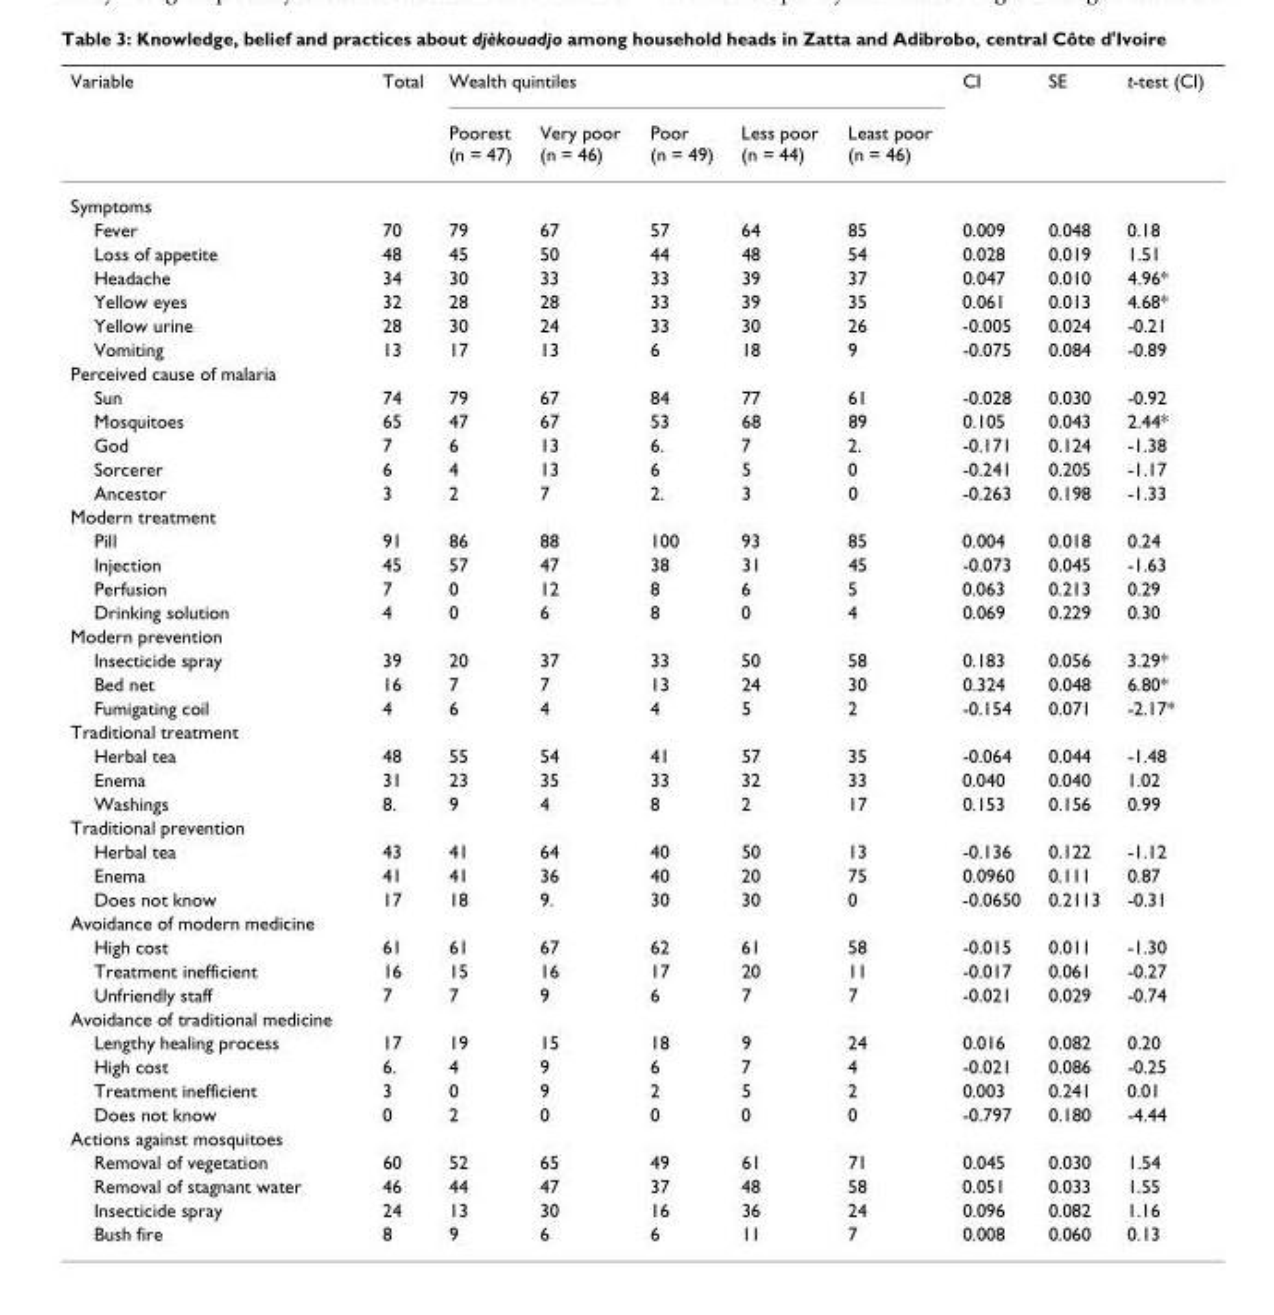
<table><thead><tr><td rowspan="2">Variable</td><td rowspan="2">Total</td><td colspan="5">Wealth quintiles</td><td rowspan="2">CI</td><td rowspan="2">SE</td><td rowspan="2">t-test (CI)</td></tr><tr><td>Poorest (n = 47)</td><td>Very poor (n = 46)</td><td>Poor (n = 49)</td><td>Less poor (n = 44)</td><td>Least poor (n = 46)</td></tr></thead><tbody><tr><td colspan="10">Symptoms</td></tr><tr><td>Fever</td><td>70</td><td>79</td><td>67</td><td>57</td><td>64</td><td>85</td><td>0.009</td><td>0.048</td><td>0.18</td></tr><tr><td>Loss of appetite</td><td>48</td><td>45</td><td>50</td><td>44</td><td>48</td><td>54</td><td>0.028</td><td>0.019</td><td>1.51</td></tr><tr><td>Headache</td><td>34</td><td>30</td><td>33</td><td>33</td><td>39</td><td>37</td><td>0.047</td><td>0.010</td><td>4.96*</td></tr><tr><td>Yellow eyes</td><td>32</td><td>28</td><td>28</td><td>33</td><td>39</td><td>35</td><td>0.061</td><td>0.013</td><td>4.68*</td></tr><tr><td>Yellow urine</td><td>28</td><td>30</td><td>24</td><td>33</td><td>30</td><td>26</td><td>-0.005</td><td>0.024</td><td>-0.21</td></tr><tr><td>Vomiting</td><td>13</td><td>17</td><td>13</td><td>6</td><td>18</td><td>9</td><td>-0.075</td><td>0.084</td><td>-0.89</td></tr><tr><td colspan="10">Perceived cause of malaria</td></tr><tr><td>Sun</td><td>74</td><td>79</td><td>67</td><td>84</td><td>77</td><td>61</td><td>-0.028</td><td>0.030</td><td>-0.92</td></tr><tr><td>Mosquitoes</td><td>65</td><td>47</td><td>67</td><td>53</td><td>68</td><td>89</td><td>0.105</td><td>0.043</td><td>2.44*</td></tr><tr><td>God</td><td>7</td><td>6</td><td>13</td><td>6.</td><td>7</td><td>2.</td><td>-0.171</td><td>0.124</td><td>-1.38</td></tr><tr><td>Sorcerer</td><td>6</td><td>4</td><td>13</td><td>6</td><td>5</td><td>0</td><td>-0.241</td><td>0.205</td><td>-1.17</td></tr><tr><td>Ancestor</td><td>3</td><td>2</td><td>7</td><td>2.</td><td>3</td><td>0</td><td>-0.263</td><td>0.198</td><td>-1.33</td></tr><tr><td colspan="10">Modern treatment</td></tr><tr><td>Pill</td><td>91</td><td>86</td><td>88</td><td>100</td><td>93</td><td>85</td><td>0.004</td><td>0.018</td><td>0.24</td></tr><tr><td>Injection</td><td>45</td><td>57</td><td>47</td><td>38</td><td>31</td><td>45</td><td>-0.073</td><td>0.045</td><td>-1.63</td></tr><tr><td>Perfusion</td><td>7</td><td>0</td><td>12</td><td>8</td><td>6</td><td>5</td><td>0.063</td><td>0.213</td><td>0.29</td></tr><tr><td>Drinking solution</td><td>4</td><td>0</td><td>6</td><td>8</td><td>0</td><td>4</td><td>0.069</td><td>0.229</td><td>0.30</td></tr><tr><td colspan="10">Modern prevention</td></tr><tr><td>Insecticide spray</td><td>39</td><td>20</td><td>37</td><td>33</td><td>50</td><td>58</td><td>0.183</td><td>0.056</td><td>3.29*</td></tr><tr><td>Bed net</td><td>16</td><td>7</td><td>7</td><td>13</td><td>24</td><td>30</td><td>0.324</td><td>0.048</td><td>6.80*</td></tr><tr><td>Fumigating coil</td><td>4</td><td>6</td><td>4</td><td>4</td><td>5</td><td>2</td><td>-0.154</td><td>0.071</td><td>-2.17*</td></tr><tr><td colspan="10">Traditional treatment</td></tr><tr><td>Herbal tea</td><td>48</td><td>55</td><td>54</td><td>41</td><td>57</td><td>35</td><td>-0.064</td><td>0.044</td><td>-1.48</td></tr><tr><td>Enema</td><td>31</td><td>23</td><td>35</td><td>33</td><td>32</td><td>33</td><td>0.040</td><td>0.040</td><td>1.02</td></tr><tr><td>Washings</td><td>8.</td><td>9</td><td>4</td><td>8</td><td>2</td><td>17</td><td>0.153</td><td>0.156</td><td>0.99</td></tr><tr><td colspan="10">Traditional prevention</td></tr><tr><td>Herbal tea</td><td>43</td><td>41</td><td>64</td><td>40</td><td>50</td><td>13</td><td>-0.136</td><td>0.122</td><td>-1.12</td></tr><tr><td>Enema</td><td>41</td><td>41</td><td>36</td><td>40</td><td>20</td><td>75</td><td>0.0960</td><td>0.111</td><td>0.87</td></tr><tr><td>Does not know</td><td>17</td><td>18</td><td>9.</td><td>30</td><td>30</td><td>0</td><td>-0.0650</td><td>0.2113</td><td>-0.31</td></tr><tr><td colspan="10">Avoidance of modern medicine</td></tr><tr><td>High cost</td><td>61</td><td>61</td><td>67</td><td>62</td><td>61</td><td>58</td><td>-0.015</td><td>0.011</td><td>-1.30</td></tr><tr><td>Treatment inefficient</td><td>16</td><td>15</td><td>16</td><td>17</td><td>20</td><td>11</td><td>-0.017</td><td>0.061</td><td>-0.27</td></tr><tr><td>Unfriendly staff</td><td>7</td><td>7</td><td>9</td><td>6</td><td>7</td><td>7</td><td>-0.021</td><td>0.029</td><td>-0.74</td></tr><tr><td colspan="10">Avoidance of traditional medicine</td></tr><tr><td>Lengthy healing process</td><td>17</td><td>19</td><td>15</td><td>18</td><td>9</td><td>24</td><td>0.016</td><td>0.082</td><td>0.20</td></tr><tr><td>High cost</td><td>6.</td><td>4</td><td>9</td><td>6</td><td>7</td><td>4</td><td>-0.021</td><td>0.086</td><td>-0.25</td></tr><tr><td>Treatment inefficient</td><td>3</td><td>0</td><td>9</td><td>2</td><td>5</td><td>2</td><td>0.003</td><td>0.241</td><td>0.01</td></tr><tr><td>Does not know</td><td>0</td><td>2</td><td>0</td><td>0</td><td>0</td><td>0</td><td>-0.797</td><td>0.180</td><td>-4.44</td></tr><tr><td colspan="10">Actions against mosquitoes</td></tr><tr><td>Removal of vegetation</td><td>60</td><td>52</td><td>65</td><td>49</td><td>61</td><td>71</td><td>0.045</td><td>0.030</td><td>1.54</td></tr><tr><td>Removal of stagnant water</td><td>46</td><td>44</td><td>47</td><td>37</td><td>48</td><td>58</td><td>0.051</td><td>0.033</td><td>1.55</td></tr><tr><td>Insecticide spray</td><td>24</td><td>13</td><td>30</td><td>16</td><td>36</td><td>24</td><td>0.096</td><td>0.082</td><td>1.16</td></tr><tr><td>Bush fire</td><td>8</td><td>9</td><td>6</td><td>6</td><td>11</td><td>7</td><td>0.008</td><td>0.060</td><td>0.13</td></tr></tbody></table>